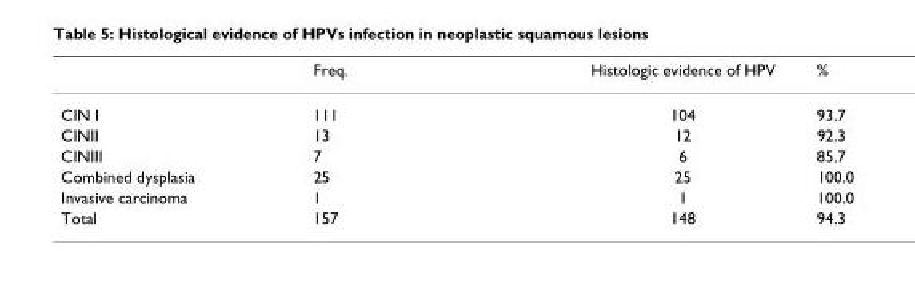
<table><thead><tr><td></td><td>Freq.</td><td>Histologic evidence of HPV</td><td>%</td></tr></thead><tbody><tr><td>CIN I</td><td>111</td><td>104</td><td>93.7</td></tr><tr><td>CINII</td><td>13</td><td>12</td><td>92.3</td></tr><tr><td>CINIII</td><td>7</td><td>6</td><td>85.7</td></tr><tr><td>Combined dysplasia</td><td>25</td><td>25</td><td>100.0</td></tr><tr><td>Invasive carcinoma</td><td>1</td><td>1</td><td>100.0</td></tr><tr><td>Total</td><td>157</td><td>148</td><td>94.3</td></tr></tbody></table>